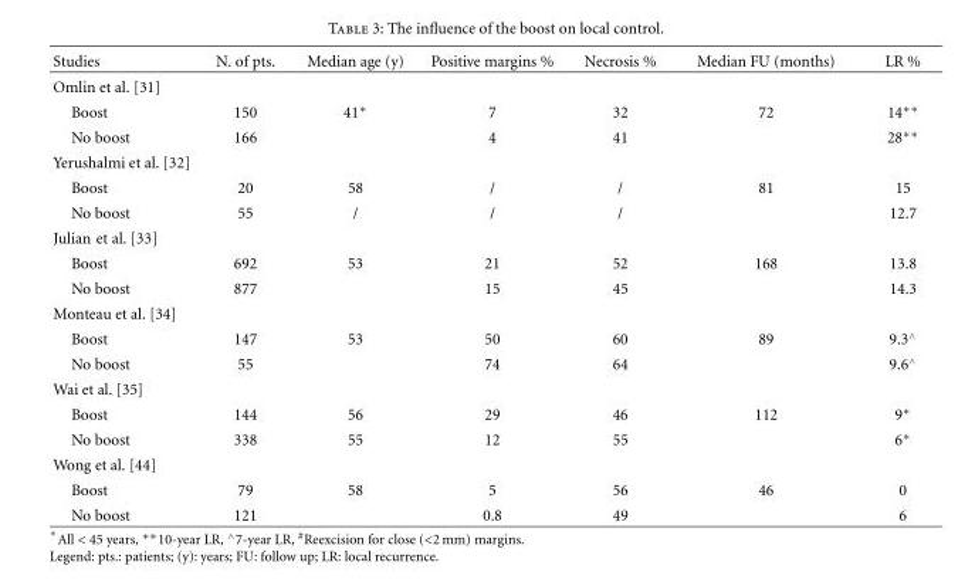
<table><thead><tr><td>Studies</td><td>N. of pts.</td><td>Median age (y)</td><td>Positive margins %</td><td>Necrosis %</td><td>Median FU (months)</td><td>LR %</td></tr></thead><tbody><tr><td colspan="7">Omlin et al. [31]</td></tr><tr><td>Boost</td><td>150</td><td>41∗</td><td>7</td><td>32</td><td>72</td><td>14∗∗</td></tr><tr><td>No boost</td><td>166</td><td></td><td>4</td><td>41</td><td></td><td>28∗∗</td></tr><tr><td colspan="7">Yerushalmi et al. [32]</td></tr><tr><td>Boost</td><td>20</td><td>58</td><td>/</td><td>/</td><td>81</td><td>15</td></tr><tr><td>No boost</td><td>55</td><td>/</td><td>/</td><td>/</td><td></td><td>12.7</td></tr><tr><td colspan="7">Julian et al. [33]</td></tr><tr><td>Boost</td><td>692</td><td>53</td><td>21</td><td>52</td><td>168</td><td>13.8</td></tr><tr><td>No boost</td><td>877</td><td></td><td>15</td><td>45</td><td></td><td>14.3</td></tr><tr><td colspan="7">Monteau et al. [34]</td></tr><tr><td>Boost</td><td>147</td><td>53</td><td>50</td><td>60</td><td>89</td><td>9.3<sup>∧</sup></td></tr><tr><td>No boost</td><td>55</td><td></td><td>74</td><td>64</td><td></td><td>9.6<sup>∧</sup></td></tr><tr><td colspan="7">Wai et al. [35]</td></tr><tr><td>Boost</td><td>144</td><td>56</td><td>29</td><td>46</td><td>112</td><td>9∗</td></tr><tr><td>No boost</td><td>338</td><td>55</td><td>12</td><td>55</td><td></td><td>6∗</td></tr><tr><td colspan="7">Wong et al. [44]</td></tr><tr><td>Boost</td><td>79</td><td>58</td><td>5</td><td>56</td><td>46</td><td>0</td></tr><tr><td>No boost</td><td>121</td><td></td><td>0.8</td><td>49</td><td></td><td>6</td></tr></tbody></table>